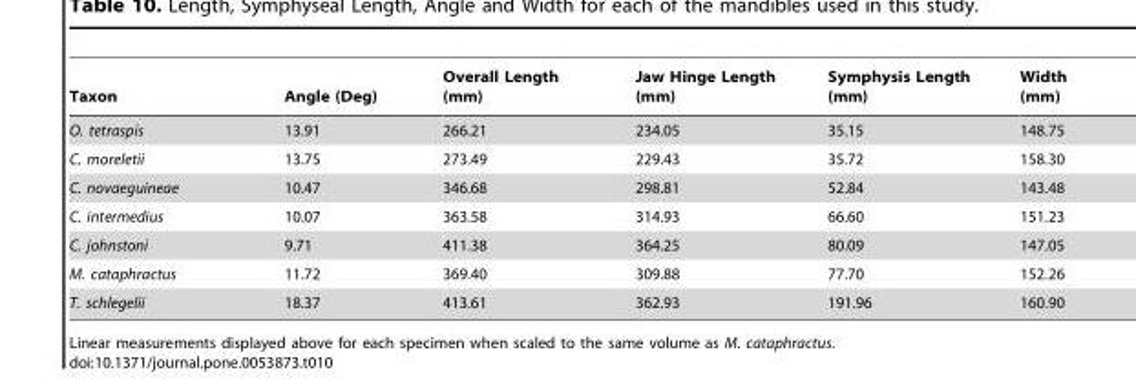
<table><thead><tr><td>Taxon</td><td>Angle (Deg)</td><td>Overall Length (mm)</td><td>Jaw Hinge Length (mm)</td><td>Symphysis Length (mm)</td><td>Width (mm)</td></tr></thead><tbody><tr><td>O. tetraspis</td><td>13.91</td><td>266.21</td><td>234.05</td><td>35.15</td><td>148.75</td></tr><tr><td>C. moreletii</td><td>13.75</td><td>273.49</td><td>229.43</td><td>35.72</td><td>158.30</td></tr><tr><td>C. novaeguineae</td><td>10.47</td><td>346.68</td><td>298.81</td><td>52.84</td><td>143.48</td></tr><tr><td>C. intermedius</td><td>10.07</td><td>363.58</td><td>314.93</td><td>66.60</td><td>151.23</td></tr><tr><td>C. johnstoni</td><td>9.71</td><td>411.38</td><td>364.25</td><td>80.09</td><td>147.05</td></tr><tr><td>M. cataphractus</td><td>11.72</td><td>369.40</td><td>309.88</td><td>77.70</td><td>152.26</td></tr><tr><td>T. schlegelii</td><td>18.37</td><td>413.61</td><td>362.93</td><td>191.96</td><td>160.90</td></tr></tbody></table>